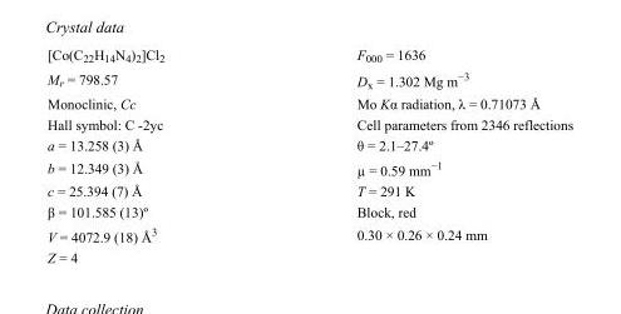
<table><tbody><tr><td>[Co(C<sub>22</sub>H<sub>14</sub>N<sub>4</sub>)<sub>2</sub>]Cl<sub>2</sub></td><td>F000 = 1636</td></tr><tr><td>M<sub>r</sub> = 798.57</td><td>D<sub>x</sub> = 1.302 Mg m<sup>−3</sup></td></tr><tr><td>Monoclinic, Cc</td><td>Mo Kα radiation, λ = 0.71073 Å</td></tr><tr><td>Hall symbol: C -2yc</td><td>Cell parameters from 2346 reflections</td></tr><tr><td>a = 13.258 (3) Å</td><td>θ = 2.1–27.4º</td></tr><tr><td>b = 12.349 (3) Å</td><td>µ = 0.59 mm<sup>−1</sup></td></tr><tr><td>c = 25.394 (7) Å</td><td>T = 291 K</td></tr><tr><td>β = 101.585 (13)º</td><td>Block, red</td></tr><tr><td>V = 4072.9 (18) Å<sup>3</sup></td><td>0.30 × 0.26 × 0.24 mm</td></tr><tr><td>Z = 4</td><td></td></tr></tbody></table>